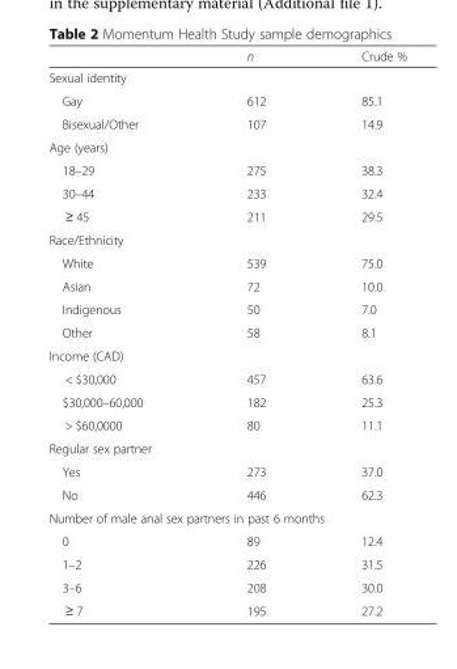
<table><thead><tr><td></td><td>n</td><td>Crude %</td></tr></thead><tbody><tr><td colspan="3">Sexual identity</td></tr><tr><td>Gay</td><td>612</td><td>85.1</td></tr><tr><td>Bisexual/Other</td><td>107</td><td>14.9</td></tr><tr><td colspan="3">Age (years)</td></tr><tr><td>18–29</td><td>275</td><td>38.3</td></tr><tr><td>30–44</td><td>233</td><td>32.4</td></tr><tr><td>≥ 45</td><td>211</td><td>29.5</td></tr><tr><td colspan="3">Race/Ethnicity</td></tr><tr><td>White</td><td>539</td><td>75.0</td></tr><tr><td>Asian</td><td>72</td><td>10.0</td></tr><tr><td>Indigenous</td><td>50</td><td>7.0</td></tr><tr><td>Other</td><td>58</td><td>8.1</td></tr><tr><td colspan="3">Income (CAD)</td></tr><tr><td>&lt; $30,000</td><td>457</td><td>63.6</td></tr><tr><td>$30,000–60,000</td><td>182</td><td>25.3</td></tr><tr><td>&gt; $60,0000</td><td>80</td><td>11.1</td></tr><tr><td colspan="3">Regular sex partner</td></tr><tr><td>Yes</td><td>273</td><td>37.0</td></tr><tr><td>No</td><td>446</td><td>62.3</td></tr><tr><td colspan="3">Number of male anal sex partners in past 6 months</td></tr><tr><td>0</td><td>89</td><td>12.4</td></tr><tr><td>1–2</td><td>226</td><td>31.5</td></tr><tr><td>3–6</td><td>208</td><td>30.0</td></tr><tr><td>≥ 7</td><td>195</td><td>27.2</td></tr></tbody></table>